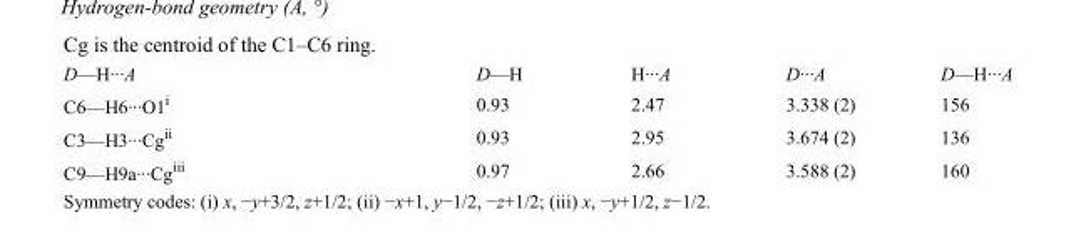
<table><tbody><tr><td>D—H···A</td><td>D—H</td><td>H···A</td><td>D···A</td><td>D—H···A</td></tr><tr><td>C6—H6···O1<sup>i</sup></td><td>0.93</td><td>2.47</td><td>3.338 (2)</td><td>156</td></tr><tr><td>C3—H3···Cg<sup>ii</sup></td><td>0.93</td><td>2.95</td><td>3.674 (2)</td><td>136</td></tr><tr><td>C9—H9a···Cg<sup>iii</sup></td><td>0.97</td><td>2.66</td><td>3.588 (2)</td><td>160</td></tr></tbody></table>